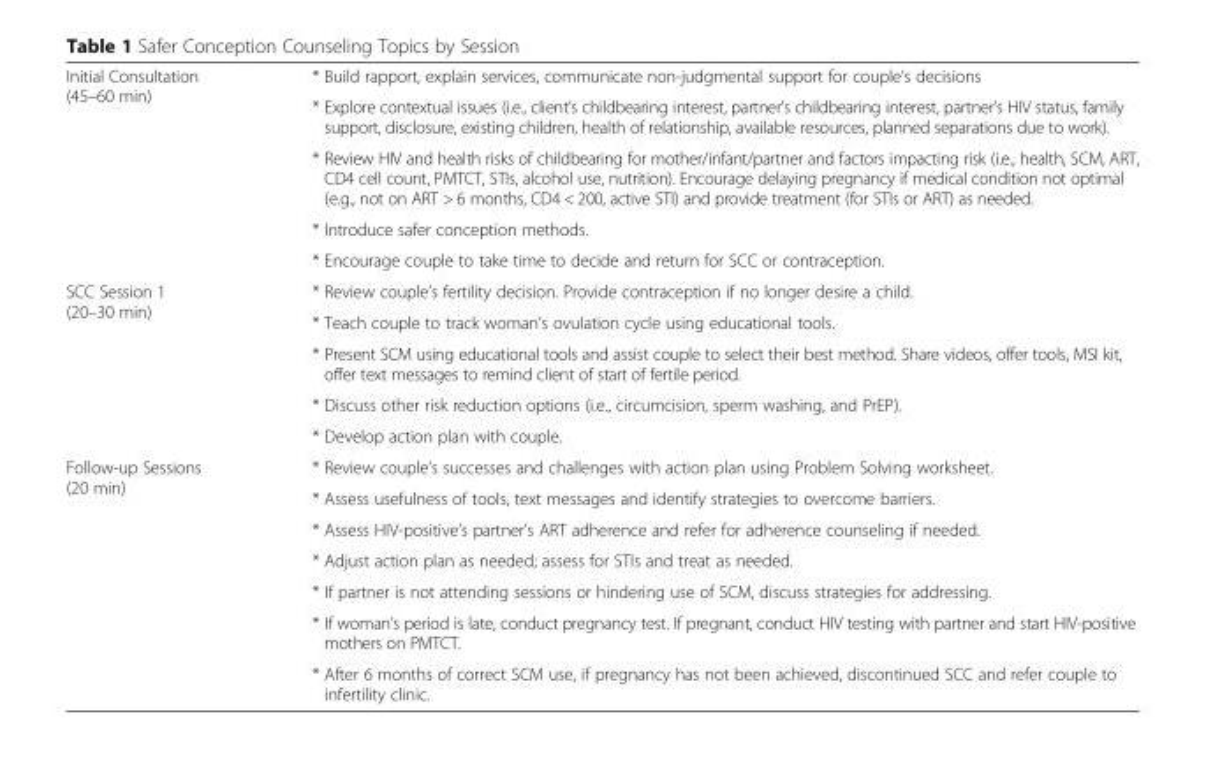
<table><tbody><tr><td rowspan="5">Initial Consultation (45–60 min)</td><td>* Build rapport, explain services, communicate non-judgmental support for couple’s decisions</td></tr><tr><td>* Explore contextual issues (i.e., client’s childbearing interest, partner’s childbearing interest, partner’s HIV status, family support, disclosure, existing children, health of relationship, available resources, planned separations due to work).</td></tr><tr><td>* Review HIV and health risks of childbearing for mother/infant/partner and factors impacting risk (i.e., health, SCM, ART, CD4 cell count, PMTCT, STIs, alcohol use, nutrition). Encourage delaying pregnancy if medical condition not optimal (e.g., not on ART &gt; 6 months, CD4 &lt; 200, active STI) and provide treatment (for STIs or ART) as needed.</td></tr><tr><td>* Introduce safer conception methods.</td></tr><tr><td>* Encourage couple to take time to decide and return for SCC or contraception.</td></tr><tr><td rowspan="5">SCC Session 1 (20–30 min)</td><td>* Review couple’s fertility decision. Provide contraception if no longer desire a child.</td></tr><tr><td>* Teach couple to track woman’s ovulation cycle using educational tools.</td></tr><tr><td>* Present SCM using educational tools and assist couple to select their best method. Share videos, offer tools, MSI kit, offer text messages to remind client of start of fertile period.</td></tr><tr><td>* Discuss other risk reduction options (i.e., circumcision, sperm washing, and PrEP).</td></tr><tr><td>* Develop action plan with couple.</td></tr><tr><td rowspan="7">Follow-up Sessions (20 min)</td><td>* Review couple’s successes and challenges with action plan using Problem Solving worksheet.</td></tr><tr><td>* Assess usefulness of tools, text messages and identify strategies to overcome barriers.</td></tr><tr><td>* Assess HIV-positive’s partner’s ART adherence and refer for adherence counseling if needed.</td></tr><tr><td>* Adjust action plan as needed; assess for STIs and treat as needed.</td></tr><tr><td>* If partner is not attending sessions or hindering use of SCM, discuss strategies for addressing.</td></tr><tr><td>* If woman’s period is late, conduct pregnancy test. If pregnant, conduct HIV testing with partner and start HIV-positive mothers on PMTCT.</td></tr><tr><td>* After 6 months of correct SCM use, if pregnancy has not been achieved, discontinued SCC and refer couple to infertility clinic.</td></tr></tbody></table>